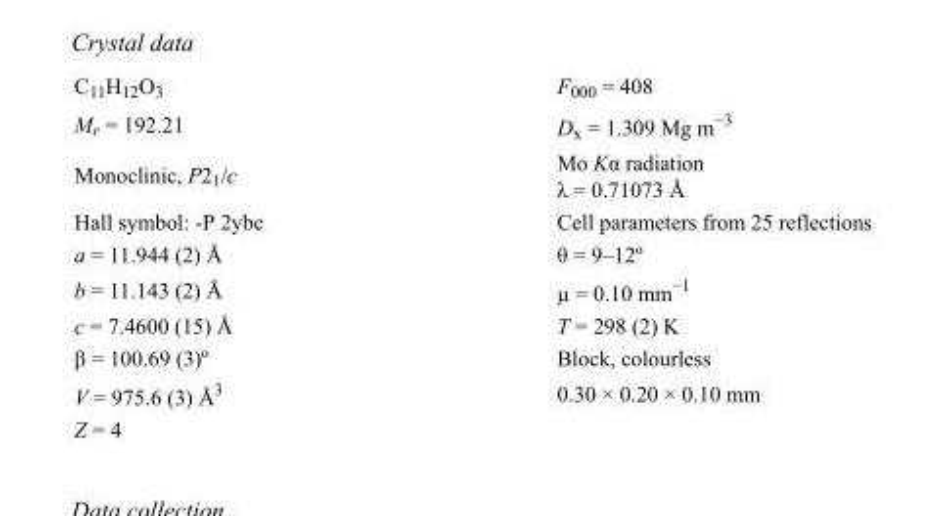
<table><tbody><tr><td>C<sub>11</sub>H<sub>12</sub>O<sub>3</sub></td><td>F000 = 408</td></tr><tr><td>M<sub>r</sub> = 192.21</td><td>D<sub>x</sub> = 1.309 Mg m<sup>−3</sup></td></tr><tr><td>Monoclinic, P2<sub>1</sub>/c</td><td>Mo Kα radiation λ = 0.71073 Å</td></tr><tr><td>Hall symbol: -P 2ybc</td><td>Cell parameters from 25 reflections</td></tr><tr><td>a = 11.944 (2) Å</td><td>θ = 9–12º</td></tr><tr><td>b = 11.143 (2) Å</td><td>µ = 0.10 mm<sup>−1</sup></td></tr><tr><td>c = 7.4600 (15) Å</td><td>T = 298 (2) K</td></tr><tr><td>β = 100.69 (3)º</td><td>Block, colourless</td></tr><tr><td>V = 975.6 (3) Å<sup>3</sup></td><td>0.30 × 0.20 × 0.10 mm</td></tr><tr><td>Z = 4</td><td></td></tr></tbody></table>